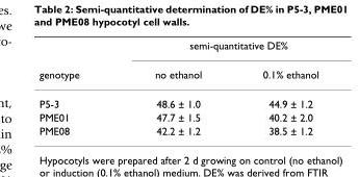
<table><thead><tr><td rowspan="2">genotype</td><td colspan="2">semi-quantitative DE%</td></tr><tr><td>no ethanol</td><td>0.1% ethanol</td></tr></thead><tbody><tr><td>P5-3</td><td>48.6 ± 1.0</td><td>44.9 ± 1.2</td></tr><tr><td>PME01</td><td>47.7 ± 1.5</td><td>40.2 ± 2.0</td></tr><tr><td>PME08</td><td>42.2 ± 1.2</td><td>38.5 ± 1.2</td></tr></tbody></table>